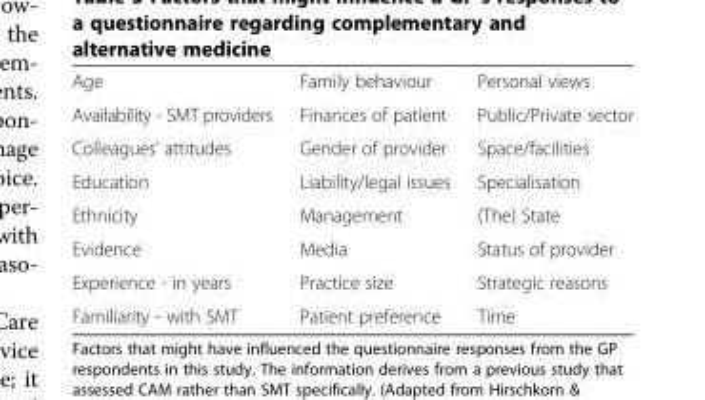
<table><tbody><tr><td>Age</td><td>Family behaviour</td><td>Personal views</td></tr><tr><td>Availability - SMT providers</td><td>Finances of patient</td><td>Public/Private sector</td></tr><tr><td>Colleagues’ attitudes</td><td>Gender of provider</td><td>Space/facilities</td></tr><tr><td>Education</td><td>Liability/legal issues</td><td>Specialisation</td></tr><tr><td>Ethnicity</td><td>Management</td><td>(The) State</td></tr><tr><td>Evidence</td><td>Media</td><td>Status of provider</td></tr><tr><td>Experience - in years</td><td>Practice size</td><td>Strategic reasons</td></tr><tr><td>Familiarity - with SMT</td><td>Patient preference</td><td>Time</td></tr></tbody></table>